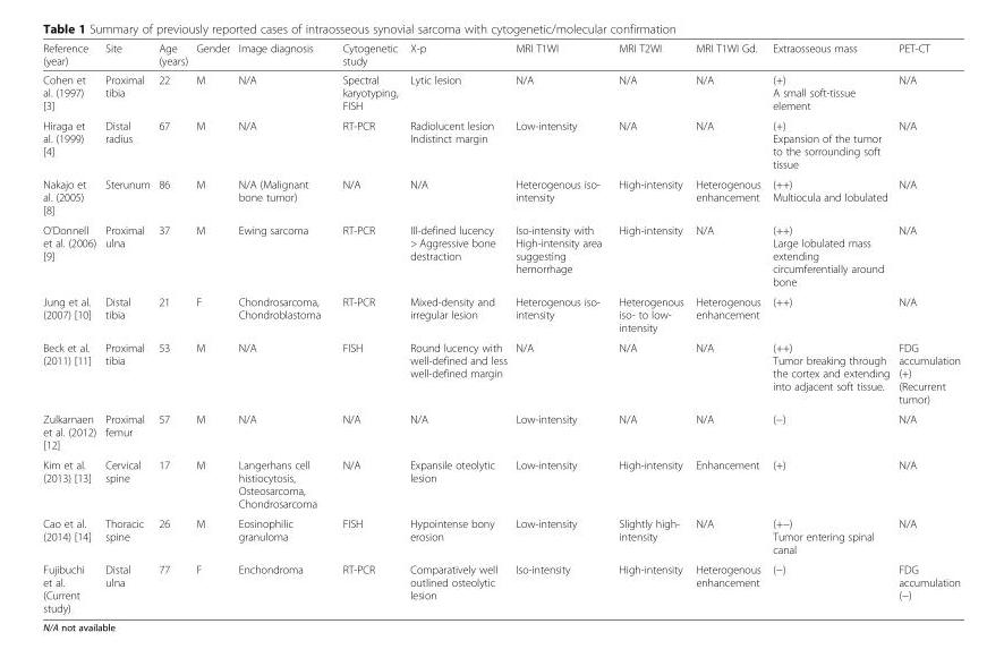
<table><thead><tr><td>Reference (year)</td><td>Site</td><td>Age (years)</td><td>Gender</td><td>Image diagnosis</td><td>Cytogenetic study</td><td>X-p</td><td>MRI T1WI</td><td>MRI T2WI</td><td>MRI T1WI Gd.</td><td>Extraosseous mass</td><td>PET-CT</td></tr></thead><tbody><tr><td>Cohen et al. (1997) [3]</td><td>Proximal tibia</td><td>22</td><td>M</td><td>N/A</td><td>Spectral karyotyping, FISH</td><td>Lytic lesion</td><td>N/A</td><td>N/A</td><td>N/A</td><td>(+) A small soft-tissue element</td><td>N/A</td></tr><tr><td>Hiraga et al. (1999) [4]</td><td>Distal radius</td><td>67</td><td>M</td><td>N/A</td><td>RT-PCR</td><td>Radiolucent lesion Indistinct margin</td><td>Low-intensity</td><td>N/A</td><td>N/A</td><td>(+) Expansion of the tumor to the sorrounding soft tissue</td><td>N/A</td></tr><tr><td>Nakajo et al. (2005) [8]</td><td>Sterunum</td><td>86</td><td>M</td><td>N/A (Malignant bone tumor)</td><td>N/A</td><td>N/A</td><td>Heterogenous iso- intensity</td><td>High-intensity</td><td>Heterogenous enhancement</td><td>(++) Multiocula and lobulated</td><td>N/A</td></tr><tr><td>O’Donnell et al. (2006) [9]</td><td>Proximal ulna</td><td>37</td><td>M</td><td>Ewing sarcoma</td><td>RT-PCR</td><td>Ill-defined lucency &gt; Aggressive bone destraction</td><td>Iso-intensity with High-intensity area suggesting hemorrhage</td><td>High-intensity</td><td>N/A</td><td>(++) Large lobulated mass extending circumferentially around bone</td><td>N/A</td></tr><tr><td>Jung et al. (2007) [10]</td><td>Distal tibia</td><td>21</td><td>F</td><td>Chondrosarcoma, Chondroblastoma</td><td>RT-PCR</td><td>Mixed-density and irregular lesion</td><td>Heterogenous iso- intensity</td><td>Heterogenous iso- to low- intensity</td><td>Heterogenous enhancement</td><td>(++)</td><td>N/A</td></tr><tr><td>Beck et al. (2011) [11]</td><td>Proximal tibia</td><td>53</td><td>M</td><td>N/A</td><td>FISH</td><td>Round lucency with well-defined and less well-defined margin</td><td>N/A</td><td>N/A</td><td>N/A</td><td>(++) Tumor breaking through the cortex and extending into adjacent soft tissue.</td><td>FDG accumulation (+) (Recurrent tumor)</td></tr><tr><td>Zulkarnaen et al. (2012) [12]</td><td>Proximal femur</td><td>57</td><td>M</td><td>N/A</td><td>N/A</td><td>N/A</td><td>Low-intensity</td><td>N/A</td><td>N/A</td><td>(−)</td><td>N/A</td></tr><tr><td>Kim et al. (2013) [13]</td><td>Cervical spine</td><td>17</td><td>M</td><td>Langerhans cell histiocytosis, Osteosarcoma, Chondrosarcoma</td><td>N/A</td><td>Expansile oteolytic lesion</td><td>Low-intensity</td><td>High-intensity</td><td>Enhancement</td><td>(+)</td><td>N/A</td></tr><tr><td>Cao et al. (2014) [14]</td><td>Thoracic spine</td><td>26</td><td>M</td><td>Eosinophilic granuloma</td><td>FISH</td><td>Hypointense bony erosion</td><td>Low-intensity</td><td>Slightly high- intensity</td><td>N/A</td><td>(+−) Tumor entering spinal canal</td><td>N/A</td></tr><tr><td>Fujibuchi et al. (Current study)</td><td>Distal ulna</td><td>77</td><td>F</td><td>Enchondroma</td><td>RT-PCR</td><td>Comparatively well outlined osteolytic lesion</td><td>Iso-intensity</td><td>High-intensity</td><td>Heterogenous enhancement</td><td>(−)</td><td>FDG accumulation (−)</td></tr></tbody></table>